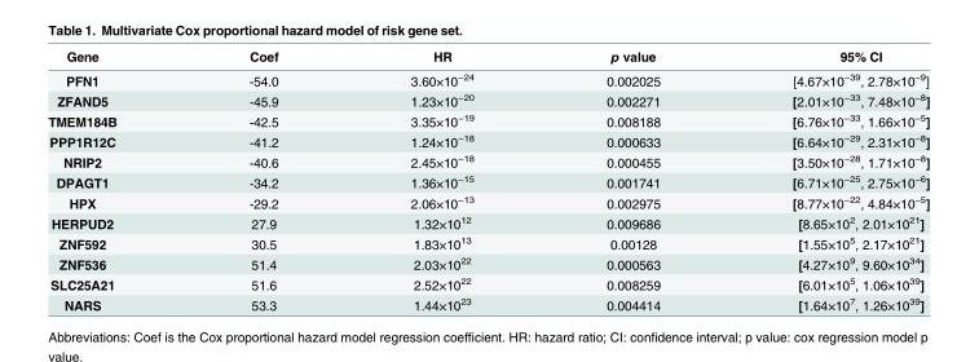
<table><thead><tr><td>Gene</td><td>Coef</td><td>HR</td><td>p value</td><td>95% CI</td></tr></thead><tbody><tr><td>PFN1</td><td>-54.0</td><td>3.60×10<sup>−24</sup></td><td>0.002025</td><td>[4.67×10<sup>−39</sup>, 2.78×10<sup>−9</sup>]</td></tr><tr><td>ZFAND5</td><td>-45.9</td><td>1.23×10<sup>−20</sup></td><td>0.002271</td><td>[2.01×10<sup>−33</sup>, 7.48×10<sup>−8</sup>]</td></tr><tr><td>TMEM184B</td><td>-42.5</td><td>3.35×10<sup>−19</sup></td><td>0.008188</td><td>[6.76×10<sup>−33</sup>, 1.66×10<sup>−5</sup>]</td></tr><tr><td>PPP1R12C</td><td>-41.2</td><td>1.24×10<sup>−18</sup></td><td>0.000633</td><td>[6.64×10<sup>−29</sup>, 2.31×10<sup>−8</sup>]</td></tr><tr><td>NRIP2</td><td>-40.6</td><td>2.45×10<sup>−18</sup></td><td>0.000455</td><td>[3.50×10<sup>−28</sup>, 1.71×10<sup>−8</sup>]</td></tr><tr><td>DPAGT1</td><td>-34.2</td><td>1.36×10<sup>−15</sup></td><td>0.001741</td><td>[6.71×10<sup>−25</sup>, 2.75×10<sup>−6</sup>]</td></tr><tr><td>HPX</td><td>-29.2</td><td>2.06×10<sup>−13</sup></td><td>0.002975</td><td>[8.77×10<sup>−22</sup>, 4.84×10<sup>−5</sup>]</td></tr><tr><td>HERPUD2</td><td>27.9</td><td>1.32×10<sup>12</sup></td><td>0.009686</td><td>[8.65×10<sup>2</sup>, 2.01×10<sup>21</sup>]</td></tr><tr><td>ZNF592</td><td>30.5</td><td>1.83×10<sup>13</sup></td><td>0.00128</td><td>[1.55×10<sup>5</sup>, 2.17×10<sup>21</sup>]</td></tr><tr><td>ZNF536</td><td>51.4</td><td>2.03×10<sup>22</sup></td><td>0.000563</td><td>[4.27×10<sup>9</sup>, 9.60×10<sup>34</sup>]</td></tr><tr><td>SLC25A21</td><td>51.6</td><td>2.52×10<sup>22</sup></td><td>0.008259</td><td>[6.01×10<sup>5</sup>, 1.06×10<sup>39</sup>]</td></tr><tr><td>NARS</td><td>53.3</td><td>1.44×10<sup>23</sup></td><td>0.004414</td><td>[1.64×10<sup>7</sup>, 1.26×10<sup>39</sup>]</td></tr></tbody></table>